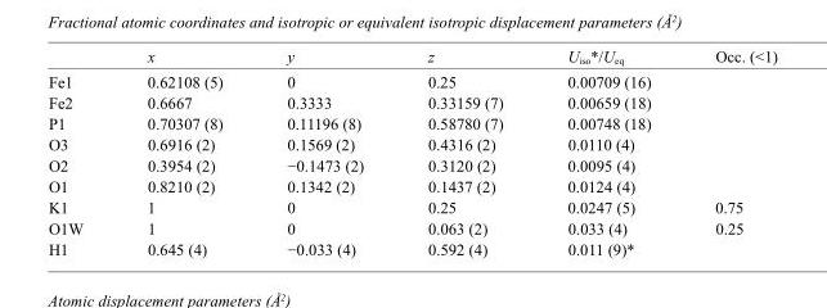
<table><thead><tr><td></td><td>x</td><td>y</td><td>z</td><td>U<sub>iso</sub>*/U<sub>eq</sub></td><td>Occ. (&lt;1)</td></tr></thead><tbody><tr><td>Fe1</td><td>0.62108 (5)</td><td>0</td><td>0.25</td><td>0.00709 (16)</td><td></td></tr><tr><td>Fe2</td><td>0.6667</td><td>0.3333</td><td>0.33159 (7)</td><td>0.00659 (18)</td><td></td></tr><tr><td>P1</td><td>0.70307 (8)</td><td>0.11196 (8)</td><td>0.58780 (7)</td><td>0.00748 (18)</td><td></td></tr><tr><td>O3</td><td>0.6916 (2)</td><td>0.1569 (2)</td><td>0.4316 (2)</td><td>0.0110 (4)</td><td></td></tr><tr><td>O2</td><td>0.3954 (2)</td><td>−0.1473 (2)</td><td>0.3120 (2)</td><td>0.0095 (4)</td><td></td></tr><tr><td>O1</td><td>0.8210 (2)</td><td>0.1342 (2)</td><td>0.1437 (2)</td><td>0.0124 (4)</td><td></td></tr><tr><td>K1</td><td>1</td><td>0</td><td>0.25</td><td>0.0247 (5)</td><td>0.75</td></tr><tr><td>O1W</td><td>1</td><td>0</td><td>0.063 (2)</td><td>0.033 (4)</td><td>0.25</td></tr><tr><td>H1</td><td>0.645 (4)</td><td>−0.033 (4)</td><td>0.592 (4)</td><td>0.011 (9)*</td><td></td></tr></tbody></table>